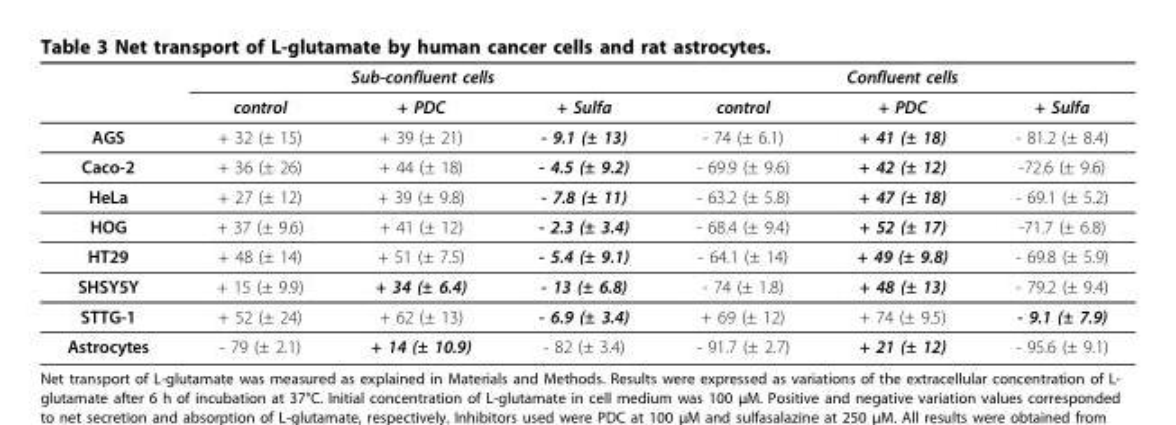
<table><thead><tr><td rowspan="2"></td><td colspan="3">Sub-confluent cells</td><td colspan="3">Confluent cells</td></tr><tr><td>control</td><td>+ PDC</td><td>+ Sulfa</td><td>control</td><td>+ PDC</td><td>+ Sulfa</td></tr></thead><tbody><tr><td>AGS</td><td>+ 32 (± 15)</td><td>+ 39 (± 21)</td><td>- 9.1 (± 13)</td><td>- 74 (± 6.1)</td><td>+ 41 (± 18)</td><td>- 81.2 (± 8.4)</td></tr><tr><td>Caco-2</td><td>+ 36 (± 26)</td><td>+ 44 (± 18)</td><td>- 4.5 (± 9.2)</td><td>- 69.9 (± 9.6)</td><td>+ 42 (± 12)</td><td>-72.6 (± 9.6)</td></tr><tr><td>HeLa</td><td>+ 27 (± 12)</td><td>+ 39 (± 9.8)</td><td>- 7.8 (± 11)</td><td>- 63.2 (± 5.8)</td><td>+ 47 (± 18)</td><td>- 69.1 (± 5.2)</td></tr><tr><td>HOG</td><td>+ 37 (± 9.6)</td><td>+ 41 (± 12)</td><td>- 2.3 (± 3.4)</td><td>- 68.4 (± 9.4)</td><td>+ 52 (± 17)</td><td>-71.7 (± 6.8)</td></tr><tr><td>HT29</td><td>+ 48 (± 14)</td><td>+ 51 (± 7.5)</td><td>- 5.4 (± 9.1)</td><td>- 64.1 (± 14)</td><td>+ 49 (± 9.8)</td><td>- 69.8 (± 5.9)</td></tr><tr><td>SHSY5Y</td><td>+ 15 (± 9.9)</td><td>+ 34 (± 6.4)</td><td>- 13 (± 6.8)</td><td>- 74 (± 1.8)</td><td>+ 48 (± 13)</td><td>- 79.2 (± 9.4)</td></tr><tr><td>STTG-1</td><td>+ 52 (± 24)</td><td>+ 62 (± 13)</td><td>- 6.9 (± 3.4)</td><td>+ 69 (± 12)</td><td>+ 74 (± 9.5)</td><td>- 9.1 (± 7.9)</td></tr><tr><td>Astrocytes</td><td>- 79 (± 2.1)</td><td>+ 14 (± 10.9)</td><td>- 82 (± 3.4)</td><td>- 91.7 (± 2.7)</td><td>+ 21 (± 12)</td><td>- 95.6 (± 9.1)</td></tr></tbody></table>